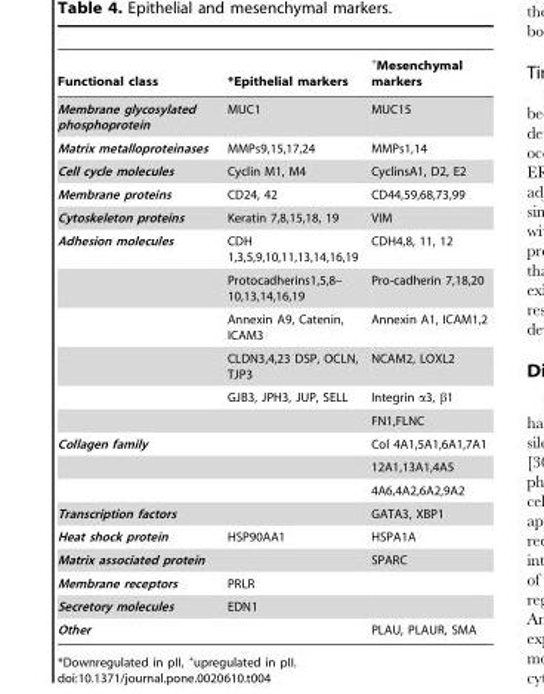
<table><thead><tr><td>Functional class</td><td>*Epithelial markers</td><td><sup>+</sup>Mesenchymal markers</td></tr></thead><tbody><tr><td>Membrane glycosylated phosphoprotein</td><td>MUC1</td><td>MUC15</td></tr><tr><td>Matrix metalloproteinases</td><td>MMPs9,15,17,24</td><td>MMPs1,14</td></tr><tr><td>Cell cycle molecules</td><td>Cyclin M1, M4</td><td>CyclinsA1, D2, E2</td></tr><tr><td>Membrane proteins</td><td>CD24, 42</td><td>CD44,59,68,73,99</td></tr><tr><td>Cytoskeleton proteins</td><td>Keratin 7,8,15,18, 19</td><td>VIM</td></tr><tr><td rowspan="6">Adhesion molecules</td><td>CDH 1,3,5,9,10,11,13,14,16,19</td><td>CDH4,8, 11, 12</td></tr><tr><td>Protocadherins1,5,8– 10,13,14,16,19</td><td>Pro-cadherin 7,18,20</td></tr><tr><td>Annexin A9, Catenin, ICAM3</td><td>Annexin A1, ICAM1,2</td></tr><tr><td>CLDN3,4,23 DSP, OCLN, TJP3</td><td>NCAM2, LOXL2</td></tr><tr><td>GJB3, JPH3, JUP, SELL</td><td>Integrin α3, β1</td></tr><tr><td></td><td>FN1,FLNC</td></tr><tr><td rowspan="3">Collagen family</td><td></td><td>Col 4A1,5A1,6A1,7A1</td></tr><tr><td></td><td>12A1,13A1,4A5</td></tr><tr><td></td><td>4A6,4A2,6A2,9A2</td></tr><tr><td>Transcription factors</td><td></td><td>GATA3, XBP1</td></tr><tr><td>Heat shock protein</td><td>HSP90AA1</td><td>HSPA1A</td></tr><tr><td>Matrix associated protein</td><td></td><td>SPARC</td></tr><tr><td>Membrane receptors</td><td>PRLR</td><td></td></tr><tr><td>Secretory molecules</td><td>EDN1</td><td></td></tr><tr><td>Other</td><td></td><td>PLAU, PLAUR, SMA</td></tr></tbody></table>